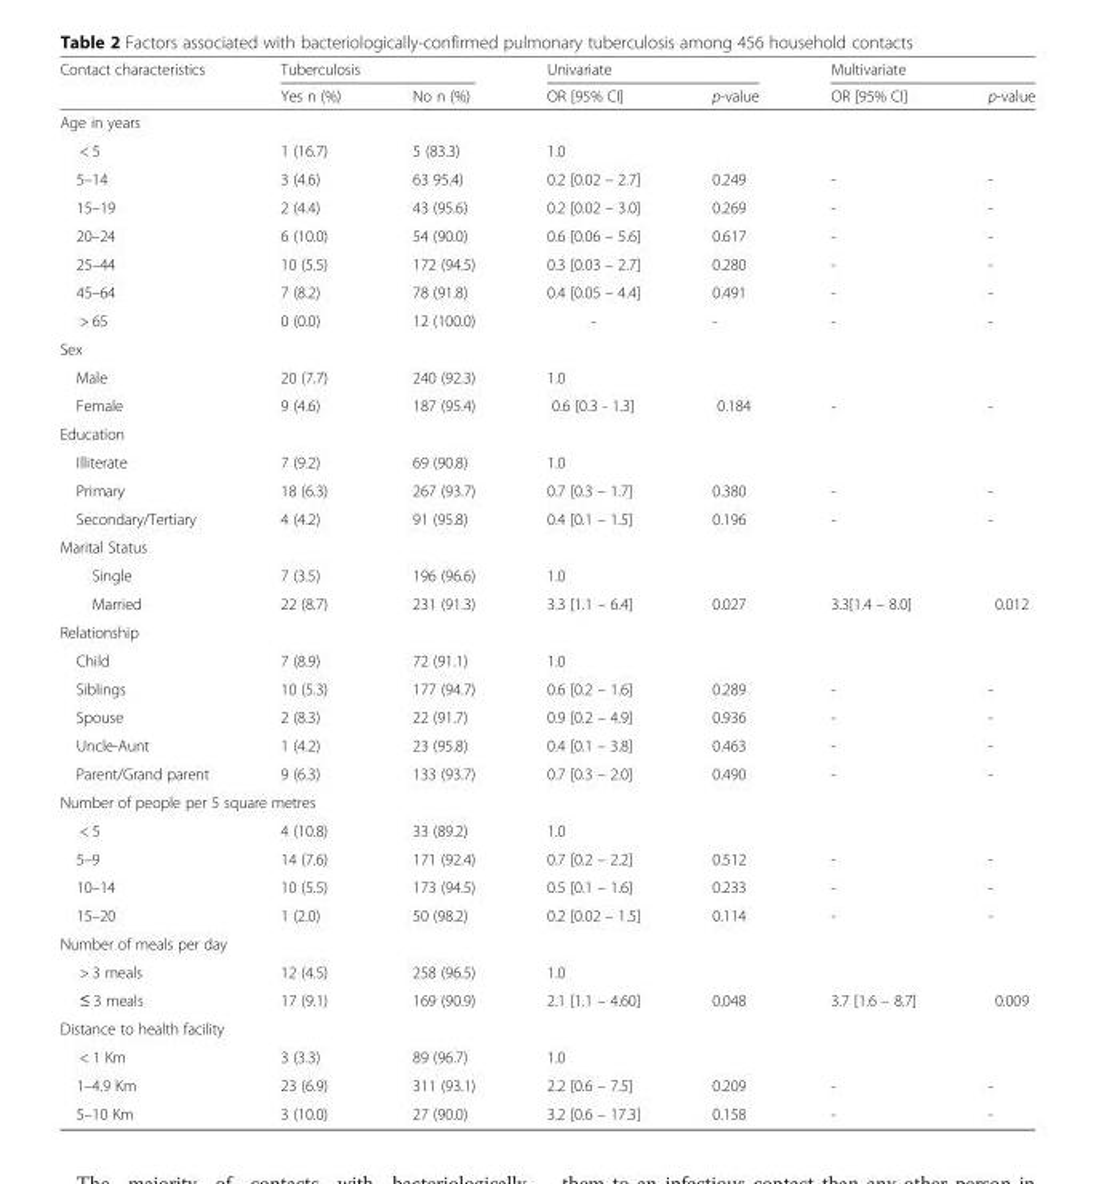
<table><thead><tr><td rowspan="2">Contact characteristics</td><td colspan="2">Tuberculosis</td><td colspan="2">Univariate</td><td colspan="2">Multivariate</td></tr><tr><td>Yes n (%)</td><td>No n (%)</td><td>OR [95% CI]</td><td>p-value</td><td>OR [95% CI]</td><td>p-value</td></tr></thead><tbody><tr><td colspan="7">Age in years</td></tr><tr><td>&lt; 5</td><td>1 (16.7)</td><td>5 (83.3)</td><td>1.0</td><td></td><td></td><td></td></tr><tr><td>5–14</td><td>3 (4.6)</td><td>63 95.4)</td><td>0.2 [0.02 – 2.7]</td><td>0.249</td><td>-</td><td>-</td></tr><tr><td>15–19</td><td>2 (4.4)</td><td>43 (95.6)</td><td>0.2 [0.02 – 3.0]</td><td>0.269</td><td>-</td><td>-</td></tr><tr><td>20–24</td><td>6 (10.0)</td><td>54 (90.0)</td><td>0.6 [0.06 – 5.6]</td><td>0.617</td><td>-</td><td>-</td></tr><tr><td>25–44</td><td>10 (5.5)</td><td>172 (94.5)</td><td>0.3 [0.03 – 2.7]</td><td>0.280</td><td>-</td><td>-</td></tr><tr><td>45–64</td><td>7 (8.2)</td><td>78 (91.8)</td><td>0.4 [0.05 – 4.4]</td><td>0.491</td><td>-</td><td>-</td></tr><tr><td>&gt; 65</td><td>0 (0.0)</td><td>12 (100.0)</td><td>-</td><td>-</td><td>-</td><td>-</td></tr><tr><td colspan="7">Sex</td></tr><tr><td>Male</td><td>20 (7.7)</td><td>240 (92.3)</td><td>1.0</td><td></td><td></td><td></td></tr><tr><td>Female</td><td>9 (4.6)</td><td>187 (95.4)</td><td>0.6 [0.3 - 1.3]</td><td>0.184</td><td>-</td><td>-</td></tr><tr><td colspan="7">Education</td></tr><tr><td>Illiterate</td><td>7 (9.2)</td><td>69 (90.8)</td><td>1.0</td><td></td><td></td><td></td></tr><tr><td>Primary</td><td>18 (6.3)</td><td>267 (93.7)</td><td>0.7 [0.3 – 1.7]</td><td>0.380</td><td>-</td><td>-</td></tr><tr><td>Secondary/Tertiary</td><td>4 (4.2)</td><td>91 (95.8)</td><td>0.4 [0.1 – 1.5]</td><td>0.196</td><td>-</td><td>-</td></tr><tr><td colspan="7">Marital Status</td></tr><tr><td>Single</td><td>7 (3.5)</td><td>196 (96.6)</td><td>1.0</td><td></td><td></td><td></td></tr><tr><td>Married</td><td>22 (8.7)</td><td>231 (91.3)</td><td>3.3 [1.1 – 6.4]</td><td>0.027</td><td>3.3[1.4 – 8.0]</td><td>0.012</td></tr><tr><td colspan="7">Relationship</td></tr><tr><td>Child</td><td>7 (8.9)</td><td>72 (91.1)</td><td>1.0</td><td></td><td></td><td></td></tr><tr><td>Siblings</td><td>10 (5.3)</td><td>177 (94.7)</td><td>0.6 [0.2 – 1.6]</td><td>0.289</td><td>-</td><td>-</td></tr><tr><td>Spouse</td><td>2 (8.3)</td><td>22 (91.7)</td><td>0.9 [0.2 – 4.9]</td><td>0.936</td><td>-</td><td>-</td></tr><tr><td>Uncle-Aunt</td><td>1 (4.2)</td><td>23 (95.8)</td><td>0.4 [0.1 – 3.8]</td><td>0.463</td><td>-</td><td>-</td></tr><tr><td>Parent/Grand parent</td><td>9 (6.3)</td><td>133 (93.7)</td><td>0.7 [0.3 – 2.0]</td><td>0.490</td><td>-</td><td>-</td></tr><tr><td colspan="7">Number of people per 5 square metres</td></tr><tr><td>&lt; 5</td><td>4 (10.8)</td><td>33 (89.2)</td><td>1.0</td><td></td><td></td><td></td></tr><tr><td>5–9</td><td>14 (7.6)</td><td>171 (92.4)</td><td>0.7 [0.2 – 2.2]</td><td>0.512</td><td>-</td><td>-</td></tr><tr><td>10–14</td><td>10 (5.5)</td><td>173 (94.5)</td><td>0.5 [0.1 – 1.6]</td><td>0.233</td><td>-</td><td>-</td></tr><tr><td>15–20</td><td>1 (2.0)</td><td>50 (98.2)</td><td>0.2 [0.02 – 1.5]</td><td>0.114</td><td>-</td><td>-</td></tr><tr><td colspan="7">Number of meals per day</td></tr><tr><td>&gt; 3 meals</td><td>12 (4.5)</td><td>258 (96.5)</td><td>1.0</td><td></td><td></td><td></td></tr><tr><td>≤ 3 meals</td><td>17 (9.1)</td><td>169 (90.9)</td><td>2.1 [1.1 – 4.60]</td><td>0.048</td><td>3.7 [1.6 – 8.7]</td><td>0.009</td></tr><tr><td colspan="7">Distance to health facility</td></tr><tr><td>&lt; 1 Km</td><td>3 (3.3)</td><td>89 (96.7)</td><td>1.0</td><td></td><td></td><td></td></tr><tr><td>1–4.9 Km</td><td>23 (6.9)</td><td>311 (93.1)</td><td>2.2 [0.6 – 7.5]</td><td>0.209</td><td>-</td><td>-</td></tr><tr><td>5–10 Km</td><td>3 (10.0)</td><td>27 (90.0)</td><td>3.2 [0.6 – 17.3]</td><td>0.158</td><td>-</td><td>-</td></tr></tbody></table>